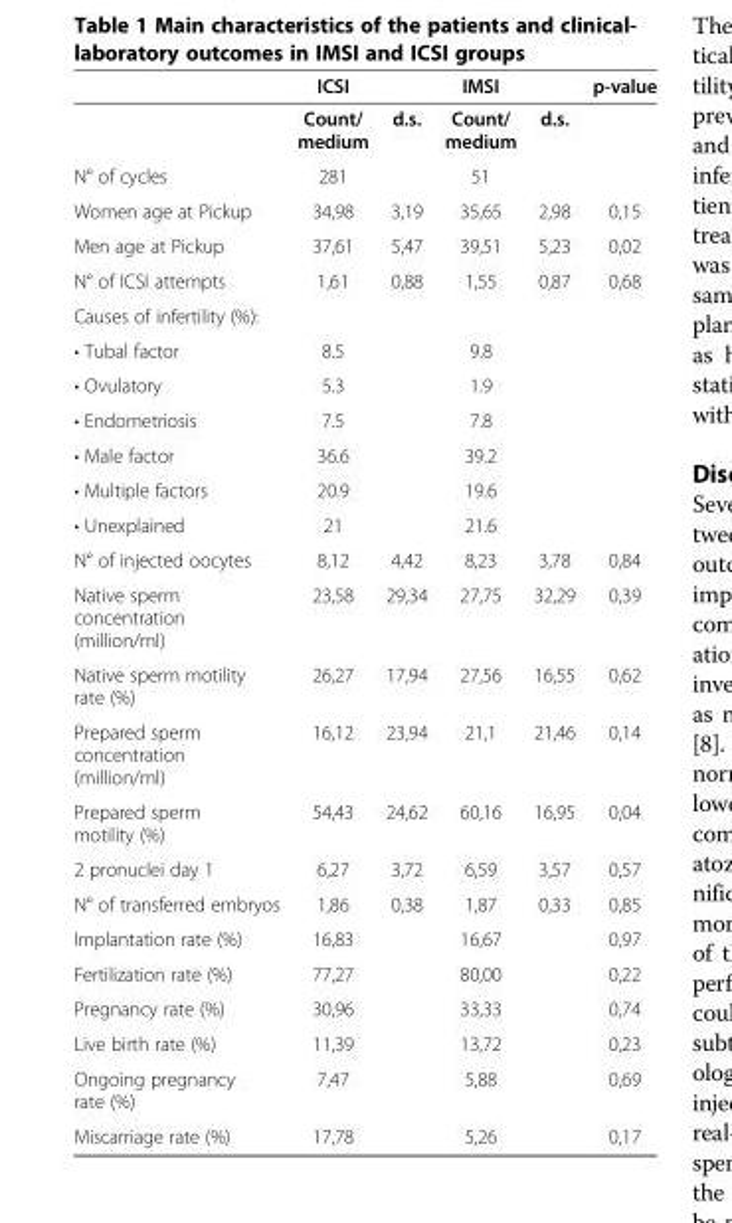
<table><thead><tr><td></td><td>ICSI</td><td></td><td>IMSI</td><td></td><td>p-value</td></tr></thead><tbody><tr><td></td><td>Count/ medium</td><td>d.s.</td><td>Count/ medium</td><td>d.s.</td><td></td></tr><tr><td>N° of cycles</td><td>281</td><td></td><td>51</td><td></td><td></td></tr><tr><td>Women age at Pickup</td><td>34,98</td><td>3,19</td><td>35,65</td><td>2,98</td><td>0,15</td></tr><tr><td>Men age at Pickup</td><td>37,61</td><td>5,47</td><td>39,51</td><td>5,23</td><td>0,02</td></tr><tr><td>N° of ICSI attempts</td><td>1,61</td><td>0,88</td><td>1,55</td><td>0,87</td><td>0,68</td></tr><tr><td colspan="6">Causes of infertility (%):</td></tr><tr><td>• Tubal factor</td><td>8.5</td><td></td><td>9.8</td><td></td><td></td></tr><tr><td>• Ovulatory</td><td>5.3</td><td></td><td>1.9</td><td></td><td></td></tr><tr><td>• Endometriosis</td><td>7.5</td><td></td><td>7.8</td><td></td><td></td></tr><tr><td>• Male factor</td><td>36.6</td><td></td><td>39.2</td><td></td><td></td></tr><tr><td>• Multiple factors</td><td>20.9</td><td></td><td>19.6</td><td></td><td></td></tr><tr><td>• Unexplained</td><td>21</td><td></td><td>21.6</td><td></td><td></td></tr><tr><td>N° of injected oocytes</td><td>8,12</td><td>4,42</td><td>8,23</td><td>3,78</td><td>0,84</td></tr><tr><td>Native sperm concentration (million/ml)</td><td>23,58</td><td>29,34</td><td>27,75</td><td>32,29</td><td>0,39</td></tr><tr><td>Native sperm motility rate (%)</td><td>26,27</td><td>17,94</td><td>27,56</td><td>16,55</td><td>0,62</td></tr><tr><td>Prepared sperm concentration (million/ml)</td><td>16,12</td><td>23,94</td><td>21,1</td><td>21,46</td><td>0,14</td></tr><tr><td>Prepared sperm motility (%)</td><td>54,43</td><td>24,62</td><td>60,16</td><td>16,95</td><td>0,04</td></tr><tr><td>2 pronuclei day 1</td><td>6,27</td><td>3,72</td><td>6,59</td><td>3,57</td><td>0,57</td></tr><tr><td>N° of transferred embryos</td><td>1,86</td><td>0,38</td><td>1,87</td><td>0,33</td><td>0,85</td></tr><tr><td>Implantation rate (%)</td><td>16,83</td><td></td><td>16,67</td><td></td><td>0,97</td></tr><tr><td>Fertilization rate (%)</td><td>77,27</td><td></td><td>80,00</td><td></td><td>0,22</td></tr><tr><td>Pregnancy rate (%)</td><td>30,96</td><td></td><td>33,33</td><td></td><td>0,74</td></tr><tr><td>Live birth rate (%)</td><td>11,39</td><td></td><td>13,72</td><td></td><td>0,23</td></tr><tr><td>Ongoing pregnancy rate (%)</td><td>7,47</td><td></td><td>5,88</td><td></td><td>0,69</td></tr><tr><td>Miscarriage rate (%)</td><td>17,78</td><td></td><td>5,26</td><td></td><td>0,17</td></tr></tbody></table>